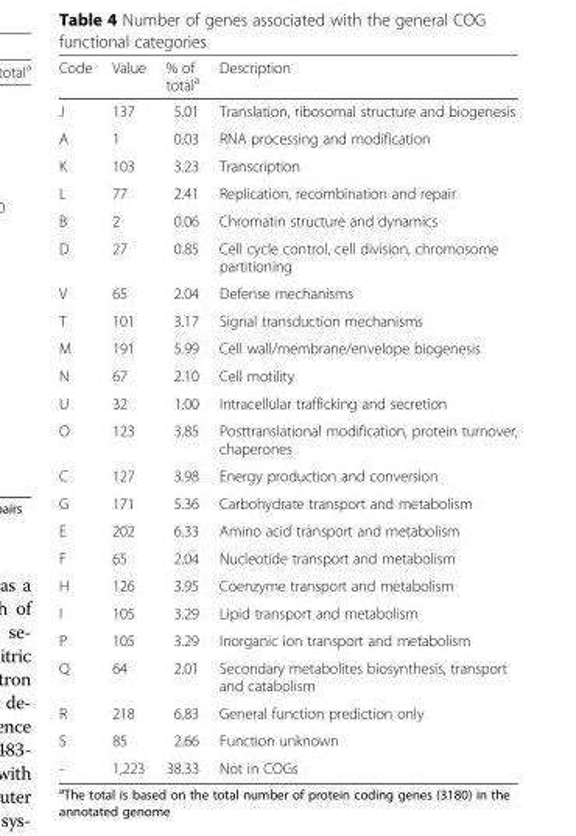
<table><thead><tr><td>Code</td><td>Value</td><td>% of total<sup>a</sup></td><td>Description</td></tr></thead><tbody><tr><td>J</td><td>137</td><td>5.01</td><td>Translation, ribosomal structure and biogenesis</td></tr><tr><td>A</td><td>1</td><td>0.03</td><td>RNA processing and modification</td></tr><tr><td>K</td><td>103</td><td>3.23</td><td>Transcription</td></tr><tr><td>L</td><td>77</td><td>2.41</td><td>Replication, recombination and repair</td></tr><tr><td>B</td><td>2</td><td>0.06</td><td>Chromatin structure and dynamics</td></tr><tr><td>D</td><td>27</td><td>0.85</td><td>Cell cycle control, cell division, chromosome partitioning</td></tr><tr><td>V</td><td>65</td><td>2.04</td><td>Defense mechanisms</td></tr><tr><td>T</td><td>101</td><td>3.17</td><td>Signal transduction mechanisms</td></tr><tr><td>M</td><td>191</td><td>5.99</td><td>Cell wall/membrane/envelope biogenesis</td></tr><tr><td>N</td><td>67</td><td>2.10</td><td>Cell motility</td></tr><tr><td>U</td><td>32</td><td>1.00</td><td>Intracellular trafficking and secretion</td></tr><tr><td>O</td><td>123</td><td>3.85</td><td>Posttranslational modification, protein turnover, chaperones</td></tr><tr><td>C</td><td>127</td><td>3.98</td><td>Energy production and conversion</td></tr><tr><td>G</td><td>171</td><td>5.36</td><td>Carbohydrate transport and metabolism</td></tr><tr><td>E</td><td>202</td><td>6.33</td><td>Amino acid transport and metabolism</td></tr><tr><td>F</td><td>65</td><td>2.04</td><td>Nucleotide transport and metabolism</td></tr><tr><td>H</td><td>126</td><td>3.95</td><td>Coenzyme transport and metabolism</td></tr><tr><td>I</td><td>105</td><td>3.29</td><td>Lipid transport and metabolism</td></tr><tr><td>P</td><td>105</td><td>3.29</td><td>Inorganic ion transport and metabolism</td></tr><tr><td>Q</td><td>64</td><td>2.01</td><td>Secondary metabolites biosynthesis, transport and catabolism</td></tr><tr><td>R</td><td>218</td><td>6.83</td><td>General function prediction only</td></tr><tr><td>S</td><td>85</td><td>2.66</td><td>Function unknown</td></tr><tr><td>-</td><td>1,223</td><td>38.33</td><td>Not in COGs</td></tr></tbody></table>